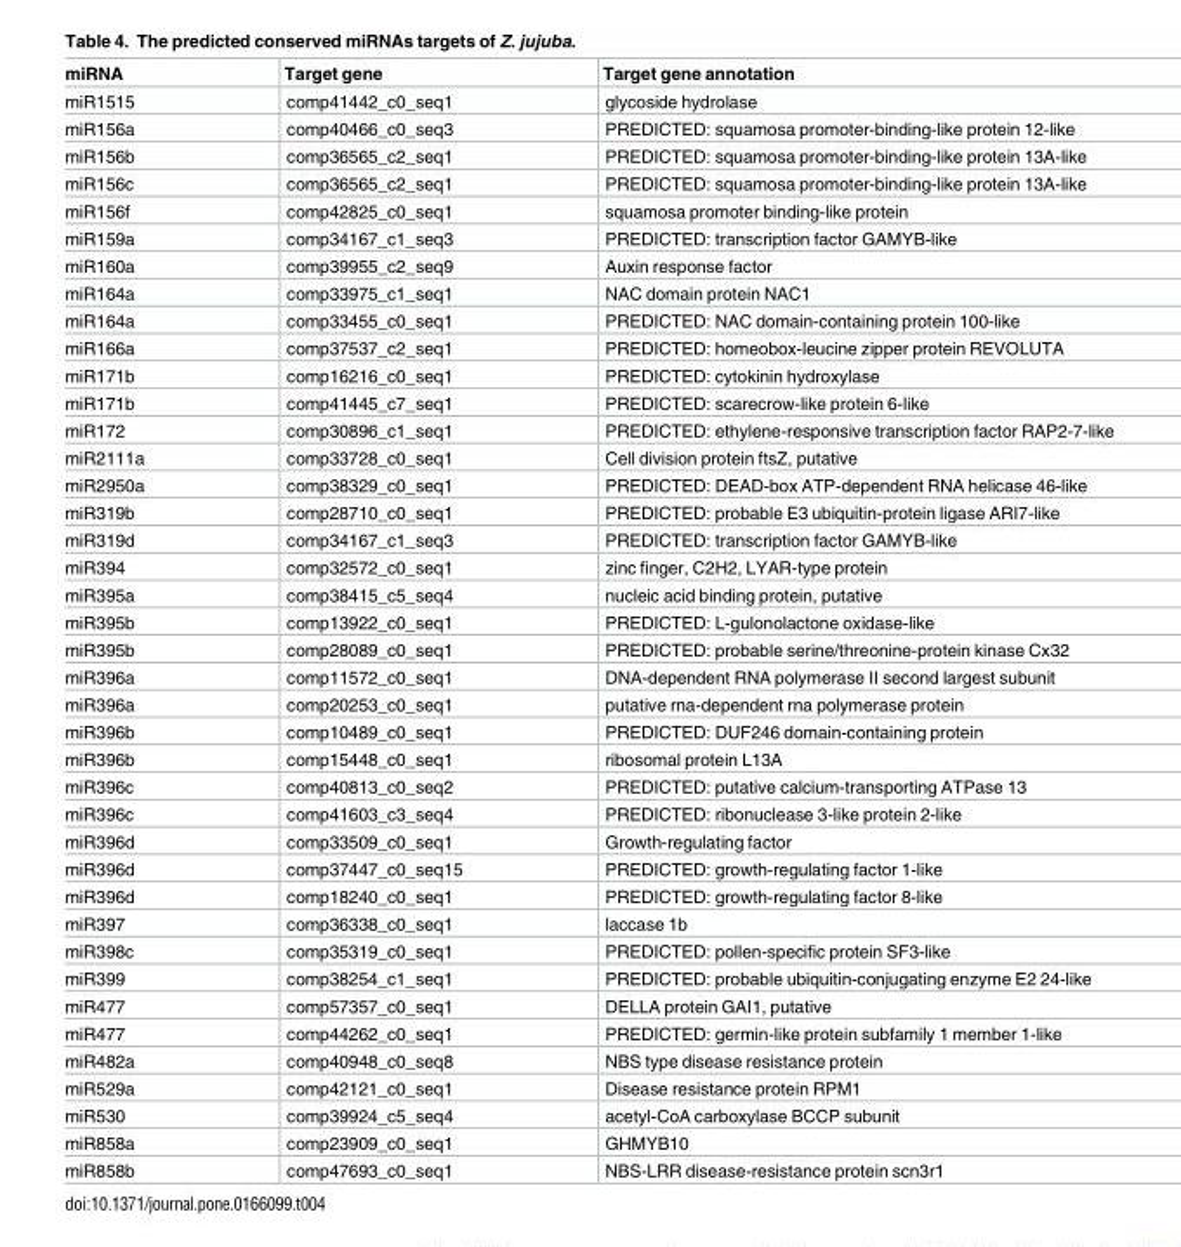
<table><thead><tr><td>miRNA</td><td>Target gene</td><td>Target gene annotation</td></tr></thead><tbody><tr><td>miR1515</td><td>comp41442_c0_seq1</td><td>glycoside hydrolase</td></tr><tr><td>miR156a</td><td>comp40466_c0_seq3</td><td>PREDICTED: squamosa promoter-binding-like protein 12-like</td></tr><tr><td>miR156b</td><td>comp36565_c2_seq1</td><td>PREDICTED: squamosa promoter-binding-like protein 13A-like</td></tr><tr><td>miR156c</td><td>comp36565_c2_seq1</td><td>PREDICTED: squamosa promoter-binding-like protein 13A-like</td></tr><tr><td>miR156f</td><td>comp42825_c0_seq1</td><td>squamosa promoter binding-like protein</td></tr><tr><td>miR159a</td><td>comp34167_c1_seq3</td><td>PREDICTED: transcription factor GAMYB-like</td></tr><tr><td>miR160a</td><td>comp39955_c2_seq9</td><td>Auxin response factor</td></tr><tr><td>miR164a</td><td>comp33975_c1_seq1</td><td>NAC domain protein NAC1</td></tr><tr><td>miR164a</td><td>comp33455_c0_seq1</td><td>PREDICTED: NAC domain-containing protein 100-like</td></tr><tr><td>miR166a</td><td>comp37537_c2_seq1</td><td>PREDICTED: homeobox-leucine zipper protein REVOLUTA</td></tr><tr><td>miR171b</td><td>comp16216_c0_seq1</td><td>PREDICTED: cytokinin hydroxylase</td></tr><tr><td>miR171b</td><td>comp41445_c7_seq1</td><td>PREDICTED: scarecrow-like protein 6-like</td></tr><tr><td>miR172</td><td>comp30896_c1_seq1</td><td>PREDICTED: ethylene-responsive transcription factor RAP2-7-like</td></tr><tr><td>miR2111a</td><td>comp33728_c0_seq1</td><td>Cell division protein ftsZ, putative</td></tr><tr><td>miR2950a</td><td>comp38329_c0_seq1</td><td>PREDICTED: DEAD-box ATP-dependent RNA helicase 46-like</td></tr><tr><td>miR319b</td><td>comp28710_c0_seq1</td><td>PREDICTED: probable E3 ubiquitin-protein ligase ARI7-like</td></tr><tr><td>miR319d</td><td>comp34167_c1_seq3</td><td>PREDICTED: transcription factor GAMYB-like</td></tr><tr><td>miR394</td><td>comp32572_c0_seq1</td><td>zinc finger, C2H2, LYAR-type protein</td></tr><tr><td>miR395a</td><td>comp38415_c5_seq4</td><td>nucleic acid binding protein, putative</td></tr><tr><td>miR395b</td><td>comp13922_c0_seq1</td><td>PREDICTED: L-gulonolactone oxidase-like</td></tr><tr><td>miR395b</td><td>comp28089_c0_seq1</td><td>PREDICTED: probable serine/threonine-protein kinase Cx32</td></tr><tr><td>miR396a</td><td>comp11572_c0_seq1</td><td>DNA-dependent RNA polymerase II second largest subunit</td></tr><tr><td>miR396a</td><td>comp20253_c0_seq1</td><td>putative rna-dependent rna polymerase protein</td></tr><tr><td>miR396b</td><td>comp10489_c0_seq1</td><td>PREDICTED: DUF246 domain-containing protein</td></tr><tr><td>miR396b</td><td>comp15448_c0_seq1</td><td>ribosomal protein L13A</td></tr><tr><td>miR396c</td><td>comp40813_c0_seq2</td><td>PREDICTED: putative calcium-transporting ATPase 13</td></tr><tr><td>miR396c</td><td>comp41603_c3_seq4</td><td>PREDICTED: ribonuclease 3-like protein 2-like</td></tr><tr><td>miR396d</td><td>comp33509_c0_seq1</td><td>Growth-regulating factor</td></tr><tr><td>miR396d</td><td>comp37447_c0_seq15</td><td>PREDICTED: growth-regulating factor 1-like</td></tr><tr><td>miR396d</td><td>comp18240_c0_seq1</td><td>PREDICTED: growth-regulating factor 8-like</td></tr><tr><td>miR397</td><td>comp36338_c0_seq1</td><td>laccase 1b</td></tr><tr><td>miR398c</td><td>comp35319_c0_seq1</td><td>PREDICTED: pollen-specific protein SF3-like</td></tr><tr><td>miR399</td><td>comp38254_c1_seq1</td><td>PREDICTED: probable ubiquitin-conjugating enzyme E2 24-like</td></tr><tr><td>miR477</td><td>comp57357_c0_seq1</td><td>DELLA protein GAI1, putative</td></tr><tr><td>miR477</td><td>comp44262_c0_seq1</td><td>PREDICTED: germin-like protein subfamily 1 member 1-like</td></tr><tr><td>miR482a</td><td>comp40948_c0_seq8</td><td>NBS type disease resistance protein</td></tr><tr><td>miR529a</td><td>comp42121_c0_seq1</td><td>Disease resistance protein RPM1</td></tr><tr><td>miR530</td><td>comp39924_c5_seq4</td><td>acetyl-CoA carboxylase BCCP subunit</td></tr><tr><td>miR858a</td><td>comp23909_c0_seq1</td><td>GHMYB10</td></tr><tr><td>miR858b</td><td>comp47693_c0_seq1</td><td>NBS-LRR disease-resistance protein scn3r1</td></tr></tbody></table>